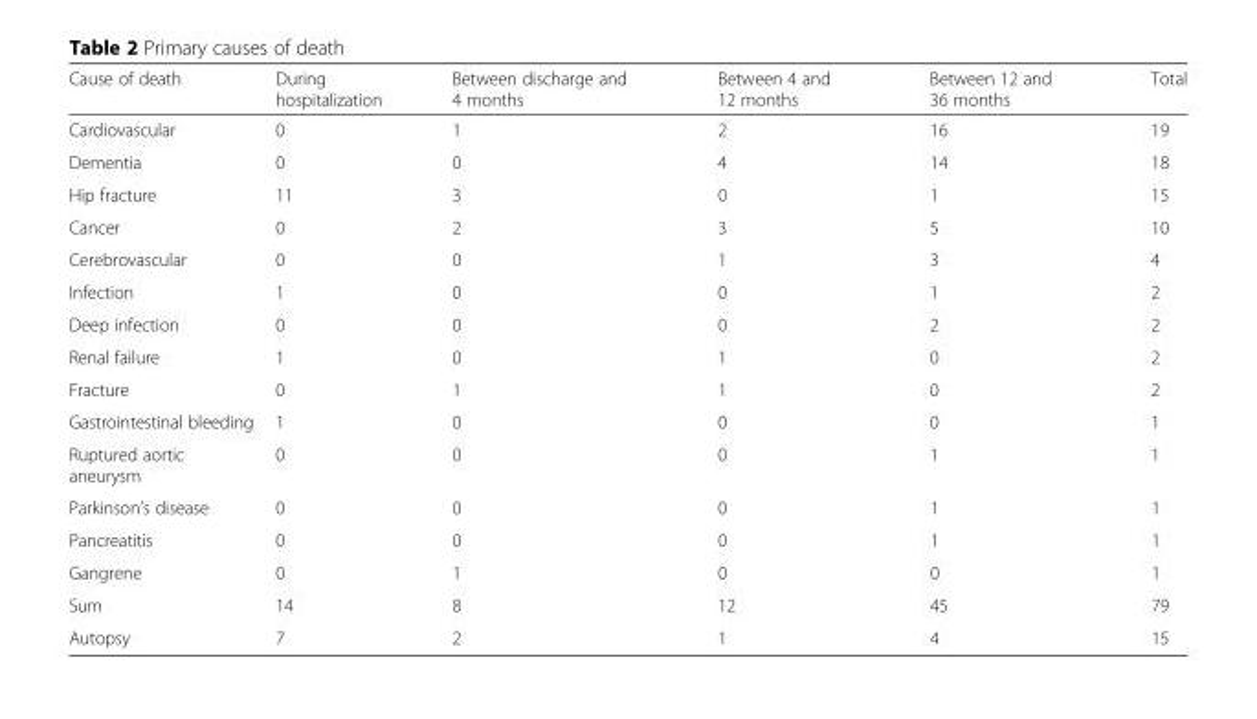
<table><thead><tr><td>Cause of death</td><td>During hospitalization</td><td>Between discharge and 4 months</td><td>Between 4 and 12 months</td><td>Between 12 and 36 months</td><td>Total</td></tr></thead><tbody><tr><td>Cardiovascular</td><td>0</td><td>1</td><td>2</td><td>16</td><td>19</td></tr><tr><td>Dementia</td><td>0</td><td>0</td><td>4</td><td>14</td><td>18</td></tr><tr><td>Hip fracture</td><td>11</td><td>3</td><td>0</td><td>1</td><td>15</td></tr><tr><td>Cancer</td><td>0</td><td>2</td><td>3</td><td>5</td><td>10</td></tr><tr><td>Cerebrovascular</td><td>0</td><td>0</td><td>1</td><td>3</td><td>4</td></tr><tr><td>Infection</td><td>1</td><td>0</td><td>0</td><td>1</td><td>2</td></tr><tr><td>Deep infection</td><td>0</td><td>0</td><td>0</td><td>2</td><td>2</td></tr><tr><td>Renal failure</td><td>1</td><td>0</td><td>1</td><td>0</td><td>2</td></tr><tr><td>Fracture</td><td>0</td><td>1</td><td>1</td><td>0</td><td>2</td></tr><tr><td>Gastrointestinal bleeding</td><td>1</td><td>0</td><td>0</td><td>0</td><td>1</td></tr><tr><td>Ruptured aortic aneurysm</td><td>0</td><td>0</td><td>0</td><td>1</td><td>1</td></tr><tr><td>Parkinson’s disease</td><td>0</td><td>0</td><td>0</td><td>1</td><td>1</td></tr><tr><td>Pancreatitis</td><td>0</td><td>0</td><td>0</td><td>1</td><td>1</td></tr><tr><td>Gangrene</td><td>0</td><td>1</td><td>0</td><td>0</td><td>1</td></tr><tr><td>Sum</td><td>14</td><td>8</td><td>12</td><td>45</td><td>79</td></tr><tr><td>Autopsy</td><td>7</td><td>2</td><td>1</td><td>4</td><td>15</td></tr></tbody></table>